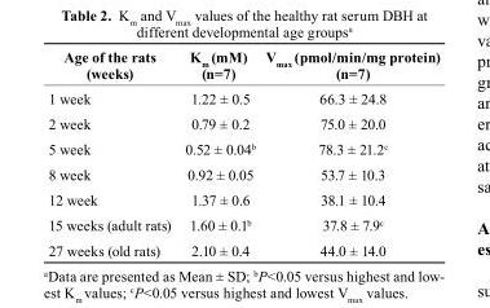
<table><thead><tr><td>Age of the rats (weeks)</td><td>K<sub>m</sub> (mM) (n=7)</td><td>V<sub>max</sub> (pmol/min/mg protein) (n=7)</td></tr></thead><tbody><tr><td>1 week</td><td>1.22 ± 0.5</td><td>66.3 ± 24.8</td></tr><tr><td>2 week</td><td>0.79 ± 0.2</td><td>75.0 ± 20.0</td></tr><tr><td>5 week</td><td>0.52 ± 0.04<sup>b</sup></td><td>78.3 ± 21.2<sup>c</sup></td></tr><tr><td>8 week</td><td>0.92 ± 0.05</td><td>53.7 ± 10.3</td></tr><tr><td>12 week</td><td>1.37 ± 0.6</td><td>38.1 ± 10.4</td></tr><tr><td>15 weeks (adult rats)</td><td>1.60 ± 0.1<sup>b</sup></td><td>37.8 ± 7.9<sup>c</sup></td></tr><tr><td>27 weeks (old rats)</td><td>2.10 ± 0.4</td><td>44.0 ± 14.0</td></tr></tbody></table>